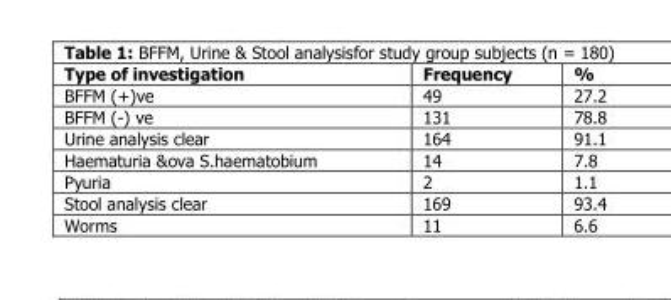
<table><thead><tr><td>Type of investigation</td><td>Frequency</td><td>%</td></tr></thead><tbody><tr><td>BFFM (+)ve</td><td>49</td><td>27.2</td></tr><tr><td>BFFM (-) ve</td><td>131</td><td>78.8</td></tr><tr><td>Urine analysis clear</td><td>164</td><td>91.1</td></tr><tr><td>Haematuria &amp;ova S.haematobium</td><td>14</td><td>7.8</td></tr><tr><td>Pyuria</td><td>2</td><td>1.1</td></tr><tr><td>Stool analysis clear</td><td>169</td><td>93.4</td></tr><tr><td>Worms</td><td>11</td><td>6.6</td></tr></tbody></table>